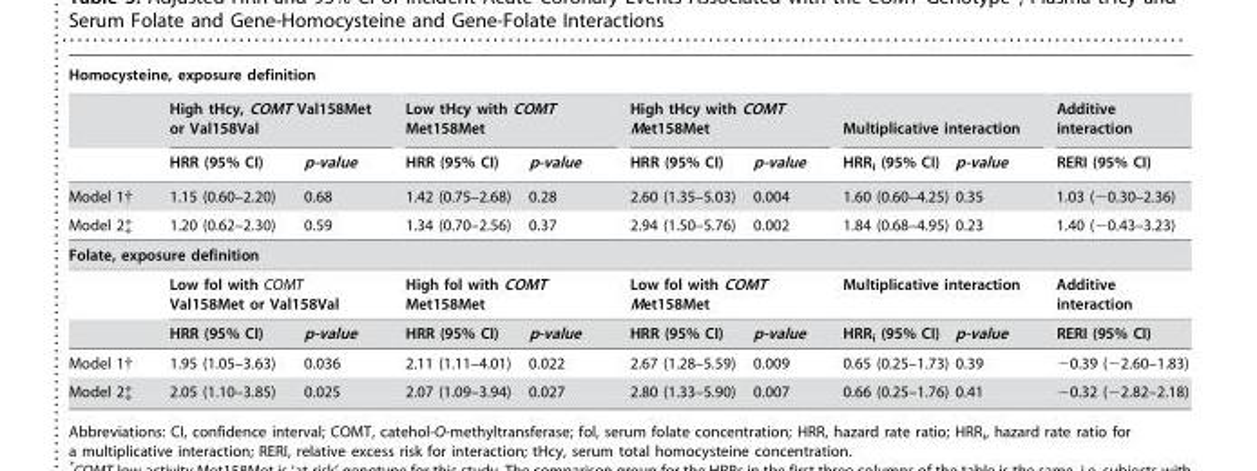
<table><thead><tr><td colspan="10">Homocysteine, exposure definition</td></tr><tr><td rowspan="2"></td><td colspan="2">High tHcy, COMT Val158Met or Val158Val</td><td colspan="2">Low tHcy with COMT Met158Met</td><td colspan="2">High tHcy with COMT Met158Met</td><td colspan="2">Multiplicative interaction</td><td rowspan="2">Additive interaction RERI (95% CI)</td></tr><tr><td>HRR (95% CI)</td><td>p-value</td><td>HRR (95% CI)</td><td>p-value</td><td>HRR (95% CI)</td><td>p-value</td><td>HRR<sub>i</sub> (95% CI)</td><td>p-value</td></tr></thead><tbody><tr><td>Model 1†</td><td>1.15 (0.60–2.20)</td><td>0.68</td><td>1.42 (0.75–2.68)</td><td>0.28</td><td>2.60 (1.35–5.03)</td><td>0.004</td><td>1.60 (0.60–4.25)</td><td>0.35</td><td>1.03 (−0.30–2.36)</td></tr><tr><td>Model 2‡</td><td>1.20 (0.62–2.30)</td><td>0.59</td><td>1.34 (0.70–2.56)</td><td>0.37</td><td>2.94 (1.50–5.76)</td><td>0.002</td><td>1.84 (0.68–4.95)</td><td>0.23</td><td>1.40 (−0.43–3.23)</td></tr><tr><td colspan="10">Folate, exposure definition</td></tr><tr><td></td><td colspan="2">Low fol with COMT Val158Met or Val158Val</td><td colspan="2">High fol with COMT Met158Met</td><td colspan="2">Low fol with COMT Met158Met</td><td colspan="2">Multiplicative interaction</td><td>Additive interaction</td></tr><tr><td></td><td>HRR (95% CI)</td><td>p-value</td><td>HRR (95% CI)</td><td>p-value</td><td>HRR (95% CI)</td><td>p-value</td><td>HRR<sub>i</sub> (95% CI)</td><td>p-value</td><td>RERI (95% CI)</td></tr><tr><td>Model 1†</td><td>1.95 (1.05–3.63)</td><td>0.036</td><td>2.11 (1.11–4.01)</td><td>0.022</td><td>2.67 (1.28–5.59)</td><td>0.009</td><td>0.65 (0.25–1.73)</td><td>0.39</td><td>−0.39 (−2.60–1.83)</td></tr><tr><td>Model 2‡</td><td>2.05 (1.10–3.85)</td><td>0.025</td><td>2.07 (1.09–3.94)</td><td>0.027</td><td>2.80 (1.33–5.90)</td><td>0.007</td><td>0.66 (0.25–1.76)</td><td>0.41</td><td>−0.32 (−2.82–2.18)</td></tr></tbody></table>